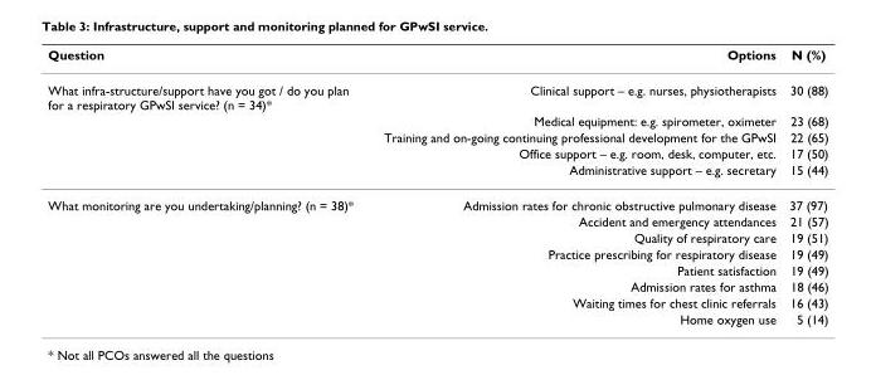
<table><thead><tr><td>Question</td><td>Options</td><td>N (%)</td></tr></thead><tbody><tr><td rowspan="5">What infra-structure/support have you got / do you plan for a respiratory GPwSI service? (n = 34)*</td><td>Clinical support – e.g. nurses, physiotherapists</td><td>30 (88)</td></tr><tr><td>Medical equipment: e.g. spirometer, oximeter</td><td>23 (68)</td></tr><tr><td>Training and on-going continuing professional development for the GPwSI</td><td>22 (65)</td></tr><tr><td>Office support – e.g. room, desk, computer, etc.</td><td>17 (50)</td></tr><tr><td>Administrative support – e.g. secretary</td><td>15 (44)</td></tr><tr><td rowspan="8">What monitoring are you undertaking/planning? (n = 38)*</td><td>Admission rates for chronic obstructive pulmonary disease</td><td>37 (97)</td></tr><tr><td>Accident and emergency attendances</td><td>21 (57)</td></tr><tr><td>Quality of respiratory care</td><td>19 (51)</td></tr><tr><td>Practice prescribing for respiratory disease</td><td>19 (49)</td></tr><tr><td>Patient satisfaction</td><td>19 (49)</td></tr><tr><td>Admission rates for asthma</td><td>18 (46)</td></tr><tr><td>Waiting times for chest clinic referrals</td><td>16 (43)</td></tr><tr><td>Home oxygen use</td><td>5 (14)</td></tr></tbody></table>